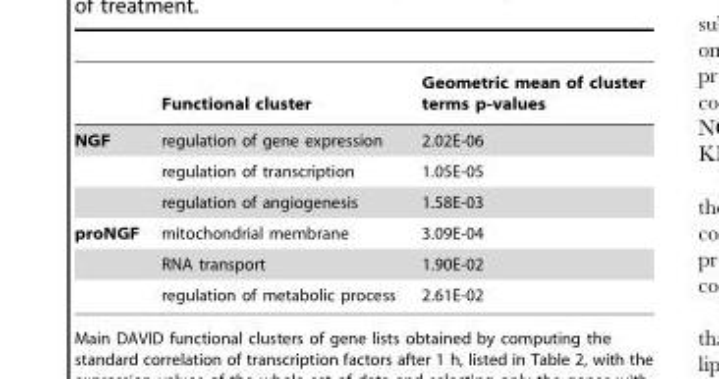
<table><thead><tr><td></td><td>Functional cluster</td><td>Geometric mean of cluster terms p-values</td></tr></thead><tbody><tr><td rowspan="3">NGF</td><td>regulation of gene expression</td><td>2.02E-06</td></tr><tr><td>regulation of transcription</td><td>1.05E-05</td></tr><tr><td>regulation of angiogenesis</td><td>1.58E-03</td></tr><tr><td rowspan="3">proNGF</td><td>mitochondrial membrane</td><td>3.09E-04</td></tr><tr><td>RNA transport</td><td>1.90E-02</td></tr><tr><td>regulation of metabolic process</td><td>2.61E-02</td></tr></tbody></table>